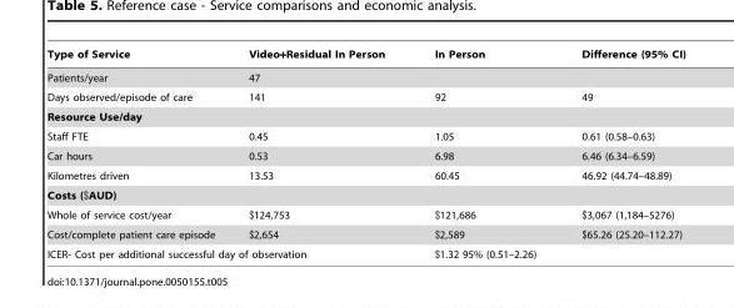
<table><thead><tr><td>Type of Service</td><td>Video+Residual In Person</td><td>In Person</td><td>Difference (95% CI)</td></tr></thead><tbody><tr><td>Patients/year</td><td colspan="3">47</td></tr><tr><td>Days observed/episode of care</td><td>141</td><td>92</td><td>49</td></tr><tr><td colspan="4">Resource Use/day</td></tr><tr><td>Staff FTE</td><td>0.45</td><td>1.05</td><td>0.61 (0.58–0.63)</td></tr><tr><td>Car hours</td><td>0.53</td><td>6.98</td><td>6.46 (6.34–6.59)</td></tr><tr><td>Kilometres driven</td><td>13.53</td><td>60.45</td><td>46.92 (44.74–48.89)</td></tr><tr><td colspan="4">Costs ($AUD)</td></tr><tr><td>Whole of service cost/year</td><td>$124,753</td><td>$121,686</td><td>$3,067 (1,184–5276)</td></tr><tr><td>Cost/complete patient care episode</td><td>$2,654</td><td>$2,589</td><td>$65.26 (25.20–112.27)</td></tr><tr><td colspan="2">ICER- Cost per additional successful day of observation</td><td colspan="2">$1.32 95% (0.51–2.26)</td></tr></tbody></table>